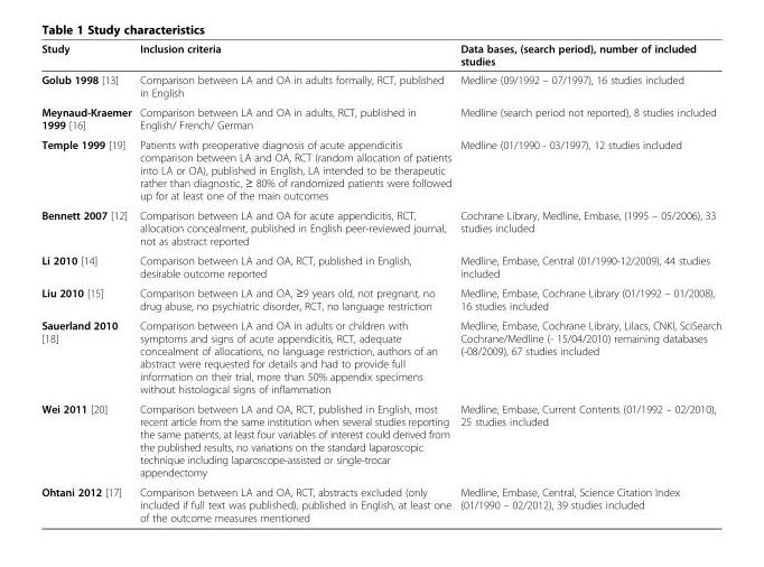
<table><thead><tr><td>Study</td><td>Inclusion criteria</td><td>Data bases, (search period), number of included studies</td></tr></thead><tbody><tr><td>Golub 1998 [13]</td><td>Comparison between LA and OA in adults formally, RCT, published in English</td><td>Medline (09/1992 – 07/1997), 16 studies included</td></tr><tr><td>Meynaud-Kraemer 1999 [16]</td><td>Comparison between LA and OA in adults, RCT, published in English/ French/ German</td><td>Medline (search period not reported), 8 studies included</td></tr><tr><td>Temple 1999 [19]</td><td>Patients with preoperative diagnosis of acute appendicitis comparison between LA and OA, RCT (random allocation of patients into LA or OA), published in English, LA intended to be therapeutic rather than diagnostic, ≥ 80% of randomized patients were followed up for at least one of the main outcomes</td><td>Medline (01/1990 - 03/1997), 12 studies included</td></tr><tr><td>Bennett 2007 [12]</td><td>Comparison between LA and OA for acute appendicitis, RCT, allocation concealment, published in English peer-reviewed journal, not as abstract reported</td><td>Cochrane Library, Medline, Embase, (1995 – 05/2006), 33 studies included</td></tr><tr><td>Li 2010 [14]</td><td>Comparison between LA and OA, RCT, published in English, desirable outcome reported</td><td>Medline, Embase, Central (01/1990-12/2009), 44 studies included</td></tr><tr><td>Liu 2010 [15]</td><td>Comparison between LA and OA, ≥9 years old, not pregnant, no drug abuse, no psychiatric disorder, RCT, no language restriction</td><td>Medline, Embase, Cochrane Library (01/1992 – 01/2008), 16 studies included</td></tr><tr><td>Sauerland 2010 [18]</td><td>Comparison between LA and OA in adults or children with symptoms and signs of acute appendicitis, RCT, adequate concealment of allocations, no language restriction, authors of an abstract were requested for details and had to provide full information on their trial, more than 50% appendix specimens without histological signs of inflammation</td><td>Medline, Embase, Cochrane Library, Lilacs, CNKI, SciSearch Cochrane/Medline (- 15/04/2010) remaining databases (-08/2009), 67 studies included</td></tr><tr><td>Wei 2011 [20]</td><td>Comparison between LA and OA, RCT, published in English, most recent article from the same institution when several studies reporting the same patients, at least four variables of interest could derived from the published results, no variations on the standard laparoscopic technique including laparoscope-assisted or single-trocar appendectomy</td><td>Medline, Embase, Current Contents (01/1992 – 02/2010), 25 studies included</td></tr><tr><td>Ohtani 2012 [17]</td><td>Comparison between LA and OA, RCT, abstracts excluded (only included if full text was published), published in English, at least one of the outcome measures mentioned</td><td>Medline, Embase, Central, Science Citation Index (01/1990 – 02/2012), 39 studies included</td></tr></tbody></table>